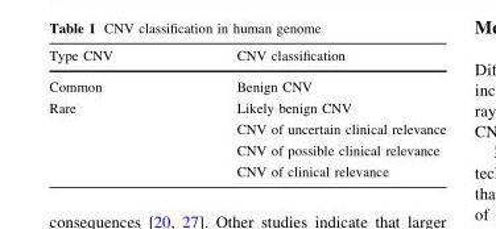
<table><thead><tr><td>Type CNV</td><td>CNV classification</td></tr></thead><tbody><tr><td>Common</td><td>Benign CNV</td></tr><tr><td rowspan="4">Rare</td><td>Likely benign CNV</td></tr><tr><td>CNV of uncertain clinical relevance</td></tr><tr><td>CNV of possible clinical relevance</td></tr><tr><td>CNV of clinical relevance</td></tr></tbody></table>